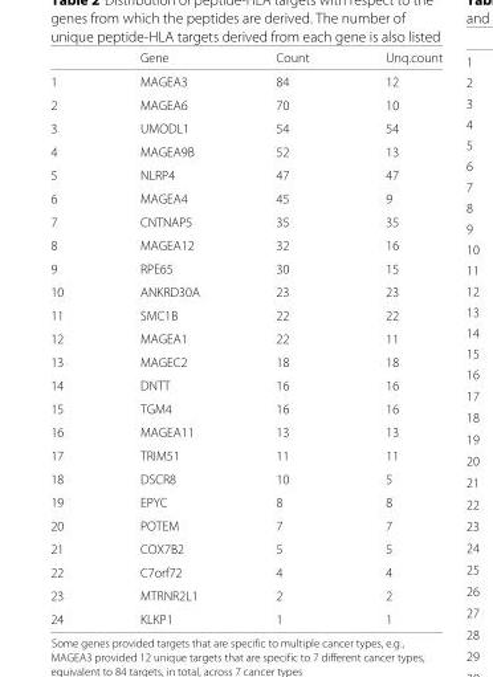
<table><thead><tr><td></td><td>Gene</td><td>Count</td><td>Unq.count</td></tr></thead><tbody><tr><td>1</td><td>MAGEA3</td><td>84</td><td>12</td></tr><tr><td>2</td><td>MAGEA6</td><td>70</td><td>10</td></tr><tr><td>3</td><td>UMODL1</td><td>54</td><td>54</td></tr><tr><td>4</td><td>MAGEA9B</td><td>52</td><td>13</td></tr><tr><td>5</td><td>NLRP4</td><td>47</td><td>47</td></tr><tr><td>6</td><td>MAGEA4</td><td>45</td><td>9</td></tr><tr><td>7</td><td>CNTNAP5</td><td>35</td><td>35</td></tr><tr><td>8</td><td>MAGEA12</td><td>32</td><td>16</td></tr><tr><td>9</td><td>RPE65</td><td>30</td><td>15</td></tr><tr><td>10</td><td>ANKRD30A</td><td>23</td><td>23</td></tr><tr><td>11</td><td>SMC1B</td><td>22</td><td>22</td></tr><tr><td>12</td><td>MAGEA1</td><td>22</td><td>11</td></tr><tr><td>13</td><td>MAGEC2</td><td>18</td><td>18</td></tr><tr><td>14</td><td>DNTT</td><td>16</td><td>16</td></tr><tr><td>15</td><td>TGM4</td><td>16</td><td>16</td></tr><tr><td>16</td><td>MAGEA11</td><td>13</td><td>13</td></tr><tr><td>17</td><td>TRIM51</td><td>11</td><td>11</td></tr><tr><td>18</td><td>DSCR8</td><td>10</td><td>5</td></tr><tr><td>19</td><td>EPYC</td><td>8</td><td>8</td></tr><tr><td>20</td><td>POTEM</td><td>7</td><td>7</td></tr><tr><td>21</td><td>COX7B2</td><td>5</td><td>5</td></tr><tr><td>22</td><td>C7orf72</td><td>4</td><td>4</td></tr><tr><td>23</td><td>MTRNR2L1</td><td>2</td><td>2</td></tr><tr><td>24</td><td>KLKP1</td><td>1</td><td>1</td></tr></tbody></table>